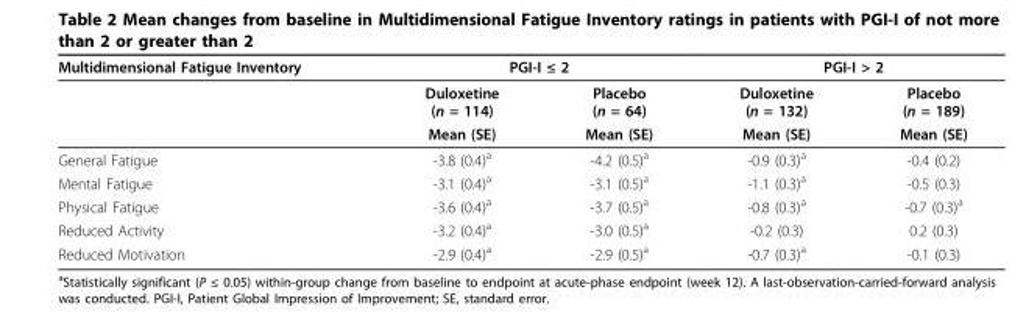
<table><thead><tr><td rowspan="2">Multidimensional Fatigue Inventory</td><td colspan="2">PGI-I ≤ 2</td><td colspan="2">PGI-I &gt; 2</td></tr><tr><td>Duloxetine (n = 114)</td><td>Placebo (n = 64)</td><td>Duloxetine (n = 132)</td><td>Placebo (n = 189)</td></tr></thead><tbody><tr><td></td><td>Mean (SE)</td><td>Mean (SE)</td><td>Mean (SE)</td><td>Mean (SE)</td></tr><tr><td>General Fatigue</td><td>-3.8 (0.4)<sup>a</sup></td><td>-4.2 (0.5)<sup>a</sup></td><td>-0.9 (0.3)<sup>a</sup></td><td>-0.4 (0.2)</td></tr><tr><td>Mental Fatigue</td><td>-3.1 (0.4)<sup>a</sup></td><td>-3.1 (0.5)<sup>a</sup></td><td>-1.1 (0.3)<sup>a</sup></td><td>-0.5 (0.3)</td></tr><tr><td>Physical Fatigue</td><td>-3.6 (0.4)<sup>a</sup></td><td>-3.7 (0.5)<sup>a</sup></td><td>-0.8 (0.3)<sup>a</sup></td><td>-0.7 (0.3)<sup>a</sup></td></tr><tr><td>Reduced Activity</td><td>-3.2 (0.4)<sup>a</sup></td><td>-3.0 (0.5)<sup>a</sup></td><td>-0.2 (0.3)</td><td>0.2 (0.3)</td></tr><tr><td>Reduced Motivation</td><td>-2.9 (0.4)<sup>a</sup></td><td>-2.9 (0.5)<sup>a</sup></td><td>-0.7 (0.3)<sup>a</sup></td><td>-0.1 (0.3)</td></tr></tbody></table>